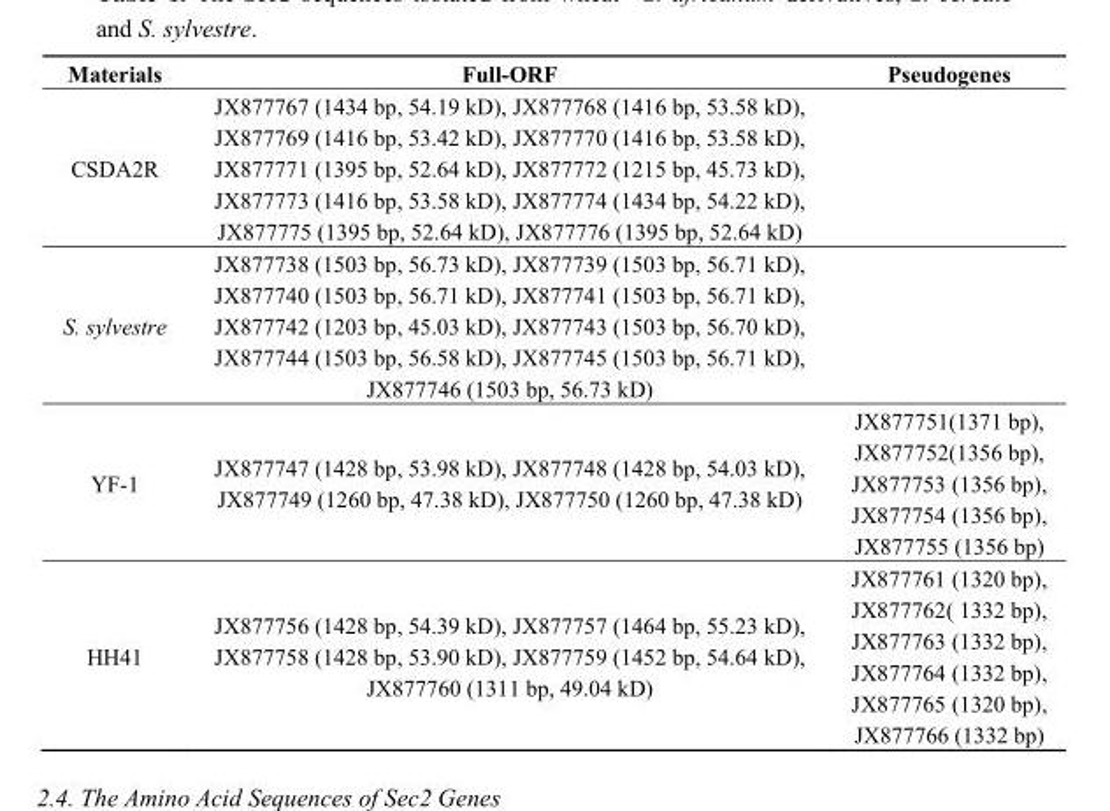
<table><thead><tr><td>Materials</td><td>Full-ORF</td><td>Pseudogenes</td></tr></thead><tbody><tr><td>CSDA2R</td><td>JX877767 (1434 bp, 54.19 kD), JX877768 (1416 bp, 53.58 kD), JX877769 (1416 bp, 53.42 kD), JX877770 (1416 bp, 53.58 kD), JX877771 (1395 bp, 52.64 kD), JX877772 (1215 bp, 45.73 kD), JX877773 (1416 bp, 53.58 kD), JX877774 (1434 bp, 54.22 kD), JX877775 (1395 bp, 52.64 kD), JX877776 (1395 bp, 52.64 kD)</td><td></td></tr><tr><td>S. sylvestre</td><td>JX877738 (1503 bp, 56.73 kD), JX877739 (1503 bp, 56.71 kD), JX877740 (1503 bp, 56.71 kD), JX877741 (1503 bp, 56.71 kD), JX877742 (1203 bp, 45.03 kD), JX877743 (1503 bp, 56.70 kD), JX877744 (1503 bp, 56.58 kD), JX877745 (1503 bp, 56.71 kD), JX877746 (1503 bp, 56.73 kD)</td><td></td></tr><tr><td>YF-1</td><td>JX877747 (1428 bp, 53.98 kD), JX877748 (1428 bp, 54.03 kD), JX877749 (1260 bp, 47.38 kD), JX877750 (1260 bp, 47.38 kD)</td><td>JX877751(1371 bp), JX877752(1356 bp), JX877753 (1356 bp), JX877754 (1356 bp), JX877755 (1356 bp)</td></tr><tr><td>HH41</td><td>JX877756 (1428 bp, 54.39 kD), JX877757 (1464 bp, 55.23 kD), JX877758 (1428 bp, 53.90 kD), JX877759 (1452 bp, 54.64 kD), JX877760 (1311 bp, 49.04 kD)</td><td>JX877761 (1320 bp), JX877762( 1332 bp), JX877763 (1332 bp), JX877764 (1332 bp), JX877765 (1320 bp), JX877766 (1332 bp)</td></tr></tbody></table>